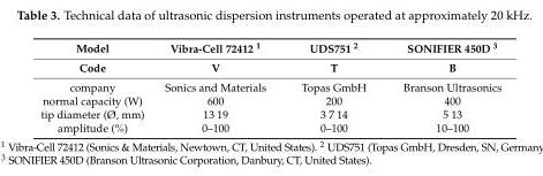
<table><thead><tr><td rowspan="2">Model Code</td><td rowspan="2">Vibra-Cell 72412 <sup>1</sup> V</td><td rowspan="2">UDS751 <sup>2</sup> T</td><td rowspan="2">SONIFIER 450D <sup>3</sup> B</td></tr><tr></tr></thead><tbody><tr><td>company</td><td>Sonics and Materials</td><td>Topas GmbH</td><td>Branson Ultrasonics</td></tr><tr><td>normal capacity (W)</td><td>600</td><td>200</td><td>400</td></tr><tr><td>tip diameter (Ø, mm)</td><td>13 19</td><td>3 7 14</td><td>5 13</td></tr><tr><td>amplitude (%)</td><td>0–100</td><td>0–100</td><td>10–100</td></tr></tbody></table>